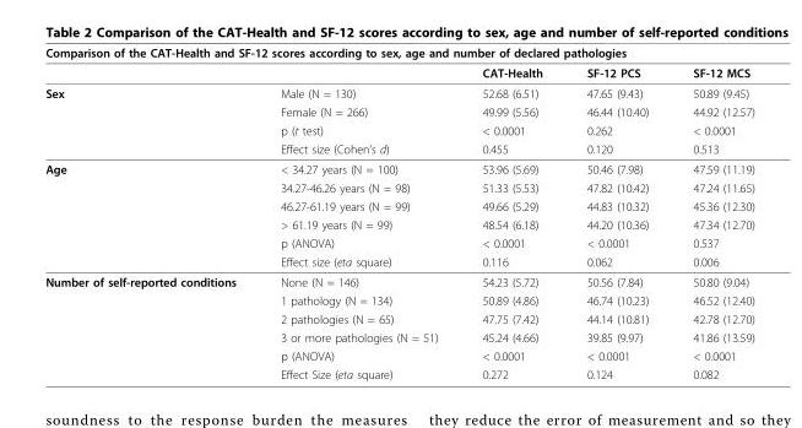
<table><thead><tr><td colspan="5">Comparison of the CAT-Health and SF-12 scores according to sex, age and number of declared pathologies</td></tr><tr><td></td><td></td><td>CAT-Health</td><td>SF-12 PCS</td><td>SF-12 MCS</td></tr></thead><tbody><tr><td rowspan="4">Sex</td><td>Male (N = 130)</td><td>52.68 (6.51)</td><td>47.65 (9.43)</td><td>50.89 (9.45)</td></tr><tr><td>Female (N = 266)</td><td>49.99 (5.56)</td><td>46.44 (10.40)</td><td>44.92 (12.57)</td></tr><tr><td>p (t test)</td><td>&lt; 0.0001</td><td>0.262</td><td>&lt; 0.0001</td></tr><tr><td>Effect size (Cohen’s d)</td><td>0.455</td><td>0.120</td><td>0.513</td></tr><tr><td rowspan="6">Age</td><td>&lt; 34.27 years (N = 100)</td><td>53.96 (5.69)</td><td>50.46 (7.98)</td><td>47.59 (11.19)</td></tr><tr><td>34.27-46.26 years (N = 98)</td><td>51.33 (5.53)</td><td>47.82 (10.42)</td><td>47.24 (11.65)</td></tr><tr><td>46.27-61.19 years (N = 99)</td><td>49.66 (5.29)</td><td>44.83 (10.32)</td><td>45.36 (12.30)</td></tr><tr><td>&gt; 61.19 years (N = 99)</td><td>48.54 (6.18)</td><td>44.20 (10.36)</td><td>47.34 (12.70)</td></tr><tr><td>p (ANOVA)</td><td>&lt; 0.0001</td><td>&lt; 0.0001</td><td>0.537</td></tr><tr><td>Effect size (eta square)</td><td>0.116</td><td>0.062</td><td>0.006</td></tr><tr><td rowspan="6">Number of self-reported conditions</td><td>None (N = 146)</td><td>54.23 (5.72)</td><td>50.56 (7.84)</td><td>50.80 (9.04)</td></tr><tr><td>1 pathology (N = 134)</td><td>50.89 (4.86)</td><td>46.74 (10.23)</td><td>46.52 (12.40)</td></tr><tr><td>2 pathologies (N = 65)</td><td>47.75 (7.42)</td><td>44.14 (10.81)</td><td>42.78 (12.70)</td></tr><tr><td>3 or more pathologies (N = 51)</td><td>45.24 (4.66)</td><td>39.85 (9.97)</td><td>41.86 (13.59)</td></tr><tr><td>p (ANOVA)</td><td>&lt; 0.0001</td><td>&lt; 0.0001</td><td>&lt; 0.0001</td></tr><tr><td>Effect Size (eta square)</td><td>0.272</td><td>0.124</td><td>0.082</td></tr></tbody></table>